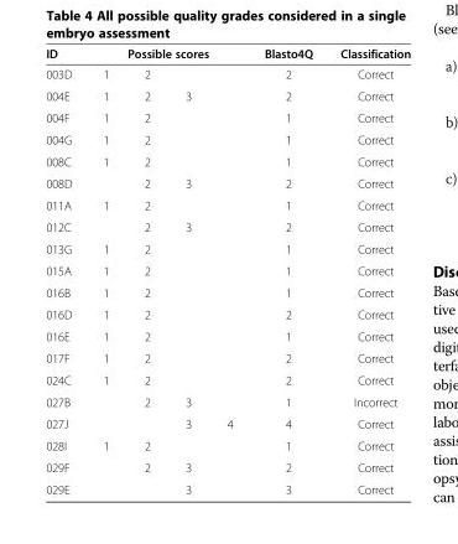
<table><thead><tr><td rowspan="2">ID 003D</td><td colspan="4">Possible scores</td><td rowspan="2">Blasto4Q 2</td><td rowspan="2">Classification Correct</td></tr><tr><td>1</td><td>2</td><td></td><td></td></tr></thead><tbody><tr><td>004E</td><td>1</td><td>2</td><td>3</td><td></td><td>2</td><td>Correct</td></tr><tr><td>004F</td><td>1</td><td>2</td><td></td><td></td><td>1</td><td>Correct</td></tr><tr><td>004G</td><td>1</td><td>2</td><td></td><td></td><td>1</td><td>Correct</td></tr><tr><td>008C</td><td>1</td><td>2</td><td></td><td></td><td>1</td><td>Correct</td></tr><tr><td>008D</td><td></td><td>2</td><td>3</td><td></td><td>2</td><td>Correct</td></tr><tr><td>011A</td><td>1</td><td>2</td><td></td><td></td><td>1</td><td>Correct</td></tr><tr><td>012C</td><td></td><td>2</td><td>3</td><td></td><td>2</td><td>Correct</td></tr><tr><td>013G</td><td>1</td><td>2</td><td></td><td></td><td>1</td><td>Correct</td></tr><tr><td>015A</td><td>1</td><td>2</td><td></td><td></td><td>1</td><td>Correct</td></tr><tr><td>016B</td><td>1</td><td>2</td><td></td><td></td><td>1</td><td>Correct</td></tr><tr><td>016D</td><td>1</td><td>2</td><td></td><td></td><td>2</td><td>Correct</td></tr><tr><td>016E</td><td>1</td><td>2</td><td></td><td></td><td>1</td><td>Correct</td></tr><tr><td>017F</td><td>1</td><td>2</td><td></td><td></td><td>2</td><td>Correct</td></tr><tr><td>024C</td><td>1</td><td>2</td><td></td><td></td><td>2</td><td>Correct</td></tr><tr><td>027B</td><td></td><td>2</td><td>3</td><td></td><td>1</td><td>Incorrect</td></tr><tr><td>027J</td><td></td><td></td><td>3</td><td>4</td><td>4</td><td>Correct</td></tr><tr><td>028I</td><td>1</td><td>2</td><td></td><td></td><td>1</td><td>Correct</td></tr><tr><td>029F</td><td></td><td>2</td><td>3</td><td></td><td>2</td><td>Correct</td></tr><tr><td>029E</td><td></td><td></td><td>3</td><td></td><td>3</td><td>Correct</td></tr></tbody></table>